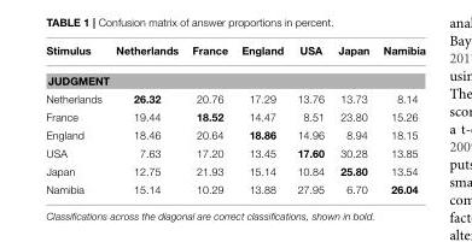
<table><thead><tr><td>Stimulus</td><td>Netherlands</td><td>France</td><td>England</td><td>USA</td><td>Japan</td><td>Namibia</td></tr></thead><tbody><tr><td colspan="7">JUDGMENT</td></tr><tr><td>Netherlands</td><td>26.32</td><td>20.76</td><td>17.29</td><td>13.76</td><td>13.73</td><td>8.14</td></tr><tr><td>France</td><td>19.44</td><td>18.52</td><td>14.47</td><td>8.51</td><td>23.80</td><td>15.26</td></tr><tr><td>England</td><td>18.46</td><td>20.64</td><td>18.86</td><td>14.96</td><td>8.94</td><td>18.15</td></tr><tr><td>USA</td><td>7.63</td><td>17.20</td><td>13.45</td><td>17.60</td><td>30.28</td><td>13.85</td></tr><tr><td>Japan</td><td>12.75</td><td>21.93</td><td>15.14</td><td>10.84</td><td>25.80</td><td>13.54</td></tr><tr><td>Namibia</td><td>15.14</td><td>10.29</td><td>13.88</td><td>27.95</td><td>6.70</td><td>26.04</td></tr></tbody></table>